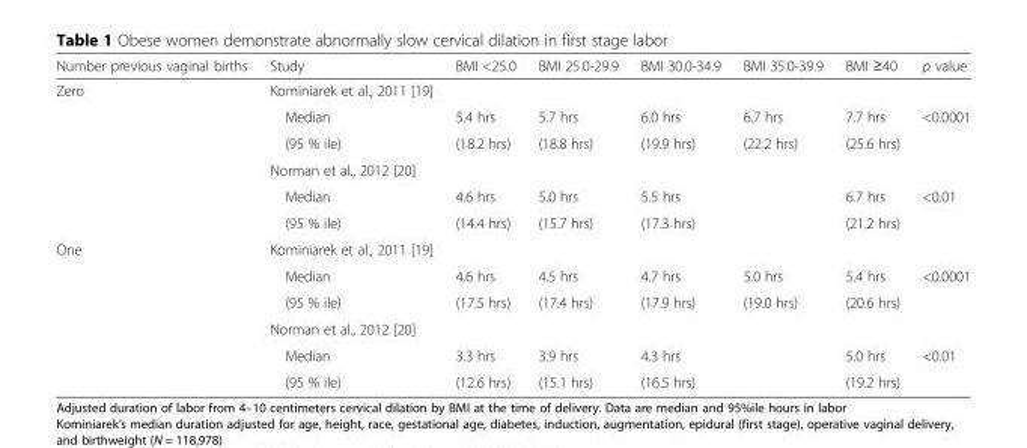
<table><thead><tr><td>Number previous vaginal births</td><td>Study</td><td>BMI &lt;25.0</td><td>BMI 25.0-29.9</td><td>BMI 30.0-34.9</td><td>BMI 35.0-39.9</td><td>BMI ≥40</td><td>p value</td></tr></thead><tbody><tr><td rowspan="6">Zero</td><td>Kominiarek et al., 2011 [19]</td><td></td><td></td><td></td><td></td><td></td><td></td></tr><tr><td>Median</td><td>5.4 hrs</td><td>5.7 hrs</td><td>6.0 hrs</td><td>6.7 hrs</td><td>7.7 hrs</td><td rowspan="2">&lt;0.0001</td></tr><tr><td>(95 % ile)</td><td>(18.2 hrs)</td><td>(18.8 hrs)</td><td>(19.9 hrs)</td><td>(22.2 hrs)</td><td>(25.6 hrs)</td></tr><tr><td>Norman et al., 2012 [20]</td><td></td><td></td><td colspan="2"></td><td></td><td></td></tr><tr><td>Median</td><td>4.6 hrs</td><td>5.0 hrs</td><td colspan="2">5.5 hrs</td><td>6.7 hrs</td><td rowspan="2">&lt;0.01</td></tr><tr><td>(95 % ile)</td><td>(14.4 hrs)</td><td>(15.7 hrs)</td><td colspan="2">(17.3 hrs)</td><td>(21.2 hrs)</td></tr><tr><td rowspan="6">One</td><td>Kominiarek et al., 2011 [19]</td><td></td><td></td><td></td><td></td><td></td><td></td></tr><tr><td>Median</td><td>4.6 hrs</td><td>4.5 hrs</td><td>4.7 hrs</td><td>5.0 hrs</td><td>5.4 hrs</td><td rowspan="2">&lt;0.0001</td></tr><tr><td>(95 % ile)</td><td>(17.5 hrs)</td><td>(17.4 hrs)</td><td>(17.9 hrs)</td><td>(19.0 hrs)</td><td>(20.6 hrs)</td></tr><tr><td>Norman et al., 2012 [20]</td><td></td><td></td><td colspan="2"></td><td></td><td></td></tr><tr><td>Median</td><td>3.3 hrs</td><td>3.9 hrs</td><td colspan="2">4.3 hrs</td><td>5.0 hrs</td><td rowspan="2">&lt;0.01</td></tr><tr><td>(95 % ile)</td><td>(12.6 hrs)</td><td>(15.1 hrs)</td><td colspan="2">(16.5 hrs)</td><td>(19.2 hrs)</td></tr></tbody></table>